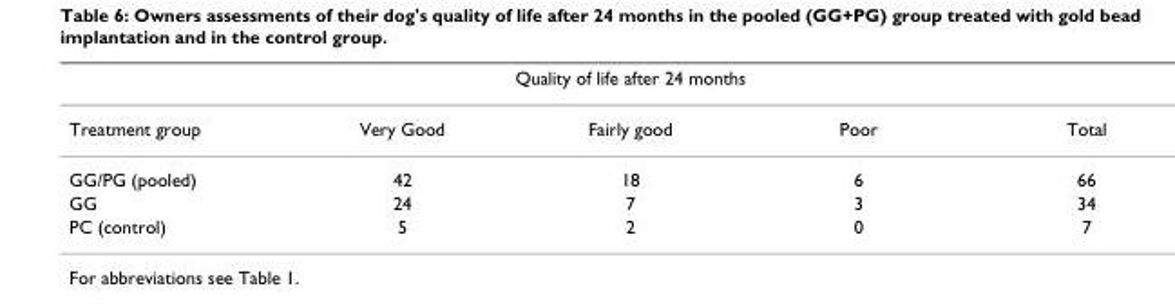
<table><thead><tr><td colspan="5">Quality of life after 24 months</td></tr><tr><td>Treatment group</td><td>Very Good</td><td>Fairly good</td><td>Poor</td><td>Total</td></tr></thead><tbody><tr><td>GG/PG (pooled)</td><td>42</td><td>18</td><td>6</td><td>66</td></tr><tr><td>GG</td><td>24</td><td>7</td><td>3</td><td>34</td></tr><tr><td>PC (control)</td><td>5</td><td>2</td><td>0</td><td>7</td></tr></tbody></table>